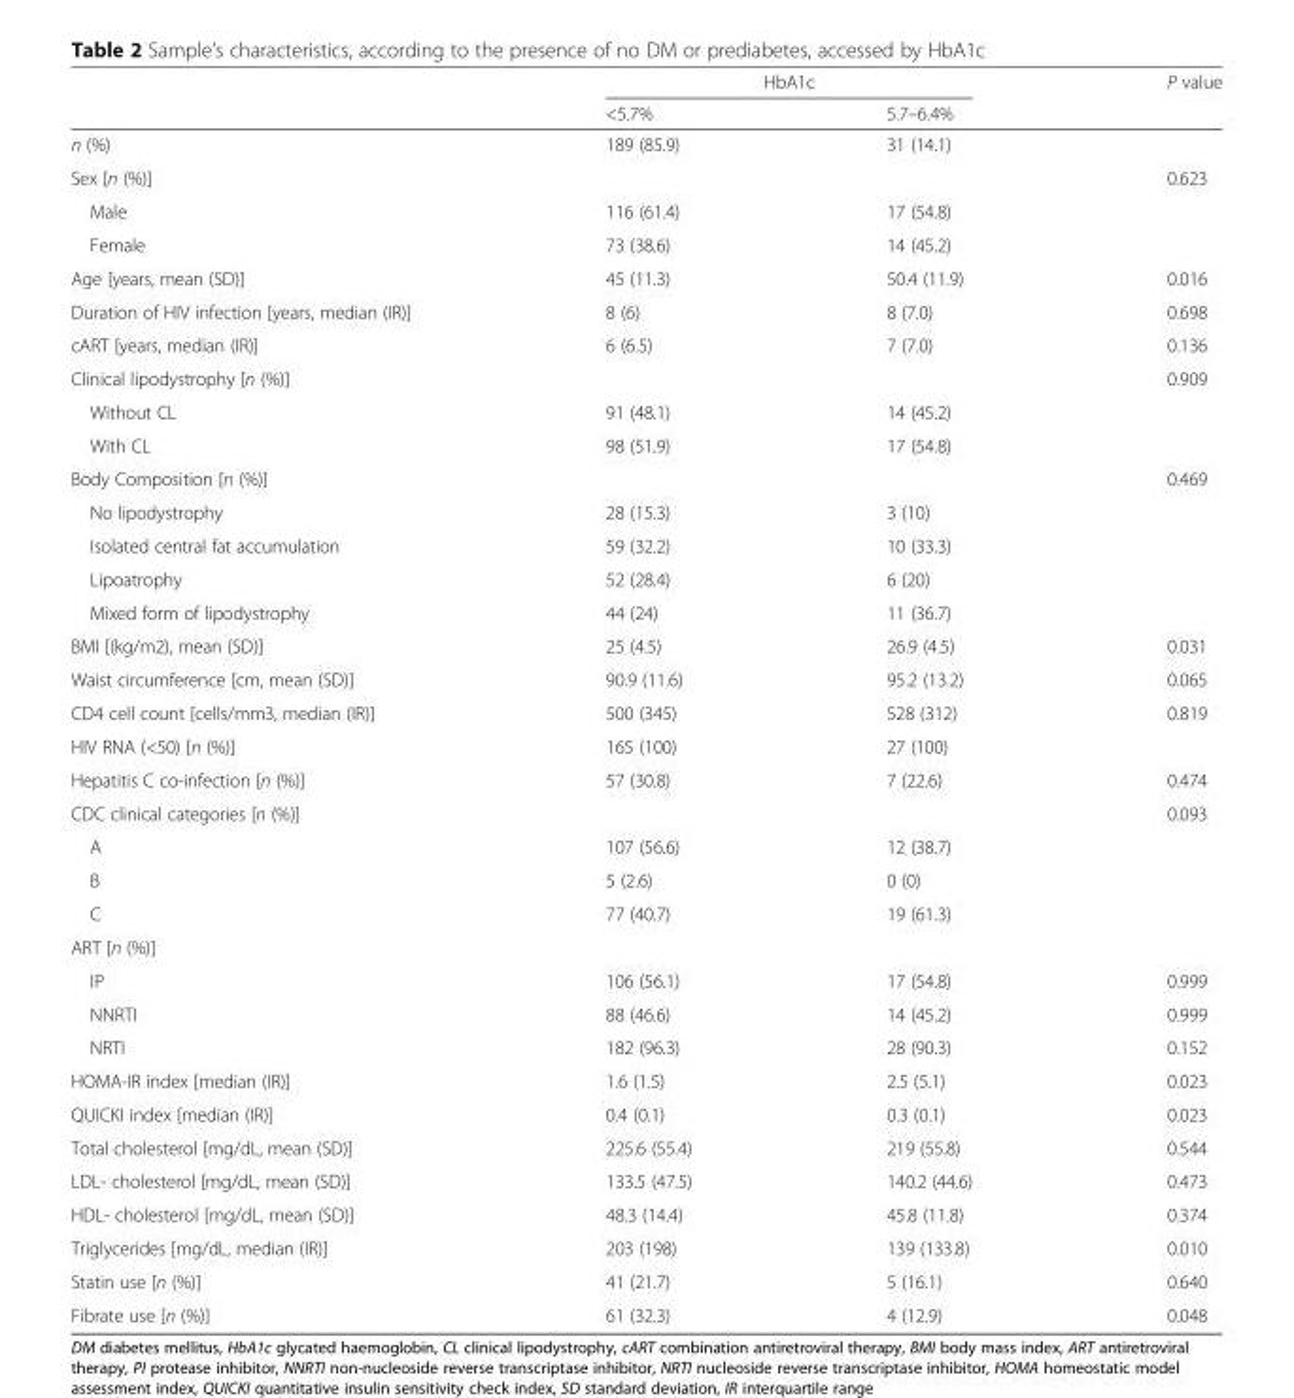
<table><thead><tr><td rowspan="2"></td><td colspan="2">HbA1c</td><td rowspan="2">P value</td></tr><tr><td>&lt;5.7%</td><td>5.7–6.4%</td></tr></thead><tbody><tr><td>n (%)</td><td>189 (85.9)</td><td>31 (14.1)</td><td></td></tr><tr><td>Sex [n (%)]</td><td></td><td></td><td>0.623</td></tr><tr><td>Male</td><td>116 (61.4)</td><td>17 (54.8)</td><td></td></tr><tr><td>Female</td><td>73 (38.6)</td><td>14 (45.2)</td><td></td></tr><tr><td>Age [years, mean (SD)]</td><td>45 (11.3)</td><td>50.4 (11.9)</td><td>0.016</td></tr><tr><td>Duration of HIV infection [years, median (IR)]</td><td>8 (6)</td><td>8 (7.0)</td><td>0.698</td></tr><tr><td>cART [years, median (IR)]</td><td>6 (6.5)</td><td>7 (7.0)</td><td>0.136</td></tr><tr><td>Clinical lipodystrophy [n (%)]</td><td></td><td></td><td>0.909</td></tr><tr><td>Without CL</td><td>91 (48.1)</td><td>14 (45.2)</td><td></td></tr><tr><td>With CL</td><td>98 (51.9)</td><td>17 (54.8)</td><td></td></tr><tr><td>Body Composition [n (%)]</td><td></td><td></td><td>0.469</td></tr><tr><td>No lipodystrophy</td><td>28 (15.3)</td><td>3 (10)</td><td></td></tr><tr><td>Isolated central fat accumulation</td><td>59 (32.2)</td><td>10 (33.3)</td><td></td></tr><tr><td>Lipoatrophy</td><td>52 (28.4)</td><td>6 (20)</td><td></td></tr><tr><td>Mixed form of lipodystrophy</td><td>44 (24)</td><td>11 (36.7)</td><td></td></tr><tr><td>BMI [(kg/m2), mean (SD)]</td><td>25 (4.5)</td><td>26.9 (4.5)</td><td>0.031</td></tr><tr><td>Waist circumference [cm, mean (SD)]</td><td>90.9 (11.6)</td><td>95.2 (13.2)</td><td>0.065</td></tr><tr><td>CD4 cell count [cells/mm3, median (IR)]</td><td>500 (345)</td><td>528 (312)</td><td>0.819</td></tr><tr><td>HIV RNA (&lt;50) [n (%)]</td><td>165 (100)</td><td>27 (100)</td><td></td></tr><tr><td>Hepatitis C co-infection [n (%)]</td><td>57 (30.8)</td><td>7 (22.6)</td><td>0.474</td></tr><tr><td>CDC clinical categories [n (%)]</td><td></td><td></td><td>0.093</td></tr><tr><td>A</td><td>107 (56.6)</td><td>12 (38.7)</td><td></td></tr><tr><td>B</td><td>5 (2.6)</td><td>0 (0)</td><td></td></tr><tr><td>C</td><td>77 (40.7)</td><td>19 (61.3)</td><td></td></tr><tr><td colspan="4">ART [n (%)]</td></tr><tr><td>IP</td><td>106 (56.1)</td><td>17 (54.8)</td><td>0.999</td></tr><tr><td>NNRTI</td><td>88 (46.6)</td><td>14 (45.2)</td><td>0.999</td></tr><tr><td>NRTI</td><td>182 (96.3)</td><td>28 (90.3)</td><td>0.152</td></tr><tr><td>HOMA-IR index [median (IR)]</td><td>1.6 (1.5)</td><td>2.5 (5.1)</td><td>0.023</td></tr><tr><td>QUICKI index [median (IR)]</td><td>0.4 (0.1)</td><td>0.3 (0.1)</td><td>0.023</td></tr><tr><td>Total cholesterol [mg/dL, mean (SD)]</td><td>225.6 (55.4)</td><td>219 (55.8)</td><td>0.544</td></tr><tr><td>LDL- cholesterol [mg/dL, mean (SD)]</td><td>133.5 (47.5)</td><td>140.2 (44.6)</td><td>0.473</td></tr><tr><td>HDL- cholesterol [mg/dL, mean (SD)]</td><td>48.3 (14.4)</td><td>45.8 (11.8)</td><td>0.374</td></tr><tr><td>Triglycerides [mg/dL, median (IR)]</td><td>203 (198)</td><td>139 (133.8)</td><td>0.010</td></tr><tr><td>Statin use [n (%)]</td><td>41 (21.7)</td><td>5 (16.1)</td><td>0.640</td></tr><tr><td>Fibrate use [n (%)]</td><td>61 (32.3)</td><td>4 (12.9)</td><td>0.048</td></tr></tbody></table>